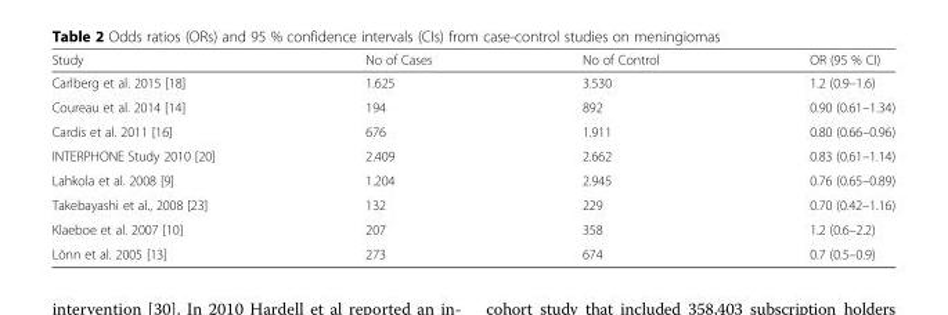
<table><thead><tr><td>Study</td><td>No of Cases</td><td>No of Control</td><td>OR (95 % CI)</td></tr></thead><tbody><tr><td>Carlberg et al. 2015 [18]</td><td>1.625</td><td>3.530</td><td>1.2 (0.9–1.6)</td></tr><tr><td>Coureau et al. 2014 [14]</td><td>194</td><td>892</td><td>0.90 (0.61–1.34)</td></tr><tr><td>Cardis et al. 2011 [16]</td><td>676</td><td>1.911</td><td>0.80 (0.66–0.96)</td></tr><tr><td>INTERPHONE Study 2010 [20]</td><td>2.409</td><td>2.662</td><td>0.83 (0.61–1.14)</td></tr><tr><td>Lahkola et al. 2008 [9]</td><td>1.204</td><td>2.945</td><td>0.76 (0.65–0.89)</td></tr><tr><td>Takebayashi et al., 2008 [23]</td><td>132</td><td>229</td><td>0.70 (0.42–1.16)</td></tr><tr><td>Klaeboe et al. 2007 [10]</td><td>207</td><td>358</td><td>1.2 (0.6–2.2)</td></tr><tr><td>Lönn et al. 2005 [13]</td><td>273</td><td>674</td><td>0.7 (0.5–0.9)</td></tr></tbody></table>